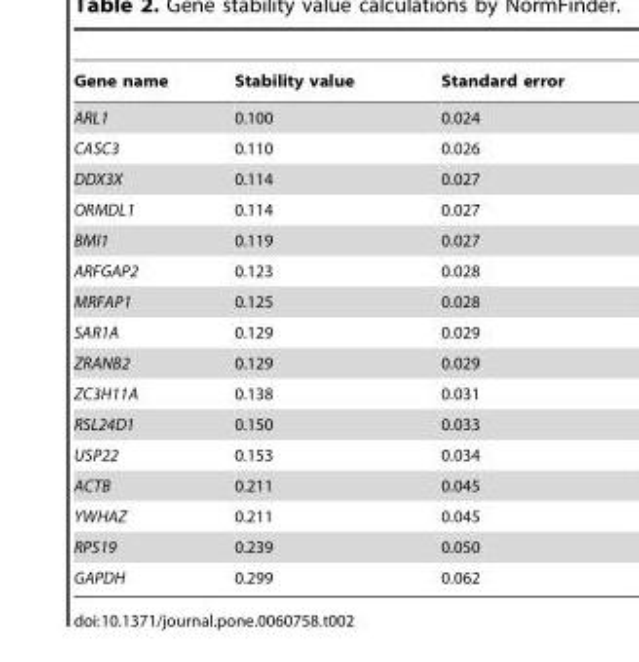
<table><thead><tr><td>Gene name</td><td>Stability value</td><td>Standard error</td></tr></thead><tbody><tr><td>ARL1</td><td>0.100</td><td>0.024</td></tr><tr><td>CASC3</td><td>0.110</td><td>0.026</td></tr><tr><td>DDX3X</td><td>0.114</td><td>0.027</td></tr><tr><td>ORMDL1</td><td>0.114</td><td>0.027</td></tr><tr><td>BMI1</td><td>0.119</td><td>0.027</td></tr><tr><td>ARFGAP2</td><td>0.123</td><td>0.028</td></tr><tr><td>MRFAP1</td><td>0.125</td><td>0.028</td></tr><tr><td>SAR1A</td><td>0.129</td><td>0.029</td></tr><tr><td>ZRANB2</td><td>0.129</td><td>0.029</td></tr><tr><td>ZC3H11A</td><td>0.138</td><td>0.031</td></tr><tr><td>RSL24D1</td><td>0.150</td><td>0.033</td></tr><tr><td>USP22</td><td>0.153</td><td>0.034</td></tr><tr><td>ACTB</td><td>0.211</td><td>0.045</td></tr><tr><td>YWHAZ</td><td>0.211</td><td>0.045</td></tr><tr><td>RPS19</td><td>0.239</td><td>0.050</td></tr><tr><td>GAPDH</td><td>0.299</td><td>0.062</td></tr></tbody></table>